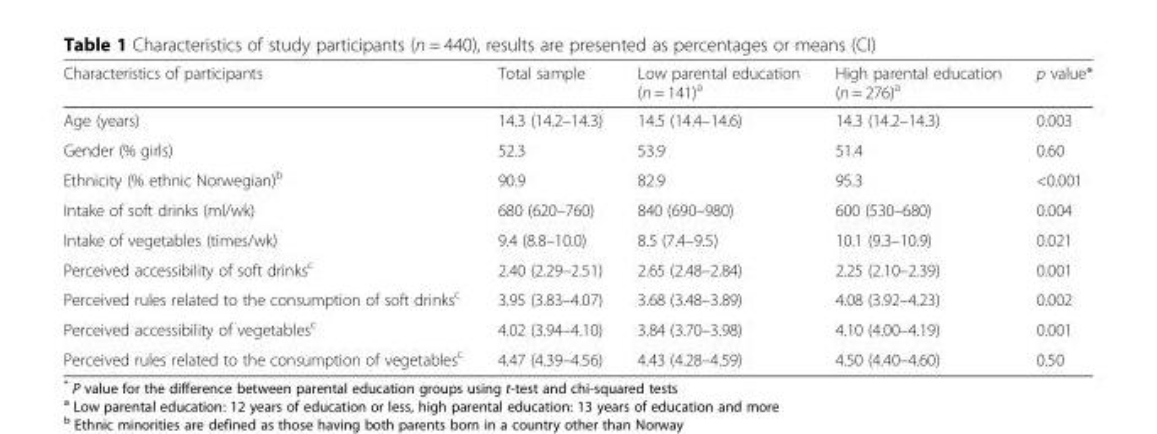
<table><thead><tr><td>Characteristics of participants</td><td>Total sample</td><td>Low parental education (n = 141)<sup>a</sup></td><td>High parental education (n = 276)<sup>a</sup></td><td>p value*</td></tr></thead><tbody><tr><td>Age (years)</td><td>14.3 (14.2–14.3)</td><td>14.5 (14.4–14.6)</td><td>14.3 (14.2–14.3)</td><td>0.003</td></tr><tr><td>Gender (% girls)</td><td>52.3</td><td>53.9</td><td>51.4</td><td>0.60</td></tr><tr><td>Ethnicity (% ethnic Norwegian)<sup>b</sup></td><td>90.9</td><td>82.9</td><td>95.3</td><td>&lt;0.001</td></tr><tr><td>Intake of soft drinks (ml/wk)</td><td>680 (620–760)</td><td>840 (690–980)</td><td>600 (530–680)</td><td>0.004</td></tr><tr><td>Intake of vegetables (times/wk)</td><td>9.4 (8.8–10.0)</td><td>8.5 (7.4–9.5)</td><td>10.1 (9.3–10.9)</td><td>0.021</td></tr><tr><td>Perceived accessibility of soft drinks<sup>c</sup></td><td>2.40 (2.29–2.51)</td><td>2.65 (2.48–2.84)</td><td>2.25 (2.10–2.39)</td><td>0.001</td></tr><tr><td>Perceived rules related to the consumption of soft drinks<sup>c</sup></td><td>3.95 (3.83–4.07)</td><td>3.68 (3.48–3.89)</td><td>4.08 (3.92–4.23)</td><td>0.002</td></tr><tr><td>Perceived accessibility of vegetables<sup>c</sup></td><td>4.02 (3.94–4.10)</td><td>3.84 (3.70–3.98)</td><td>4.10 (4.00–4.19)</td><td>0.001</td></tr><tr><td>Perceived rules related to the consumption of vegetables<sup>c</sup></td><td>4.47 (4.39–4.56)</td><td>4.43 (4.28–4.59)</td><td>4.50 (4.40–4.60)</td><td>0.50</td></tr></tbody></table>